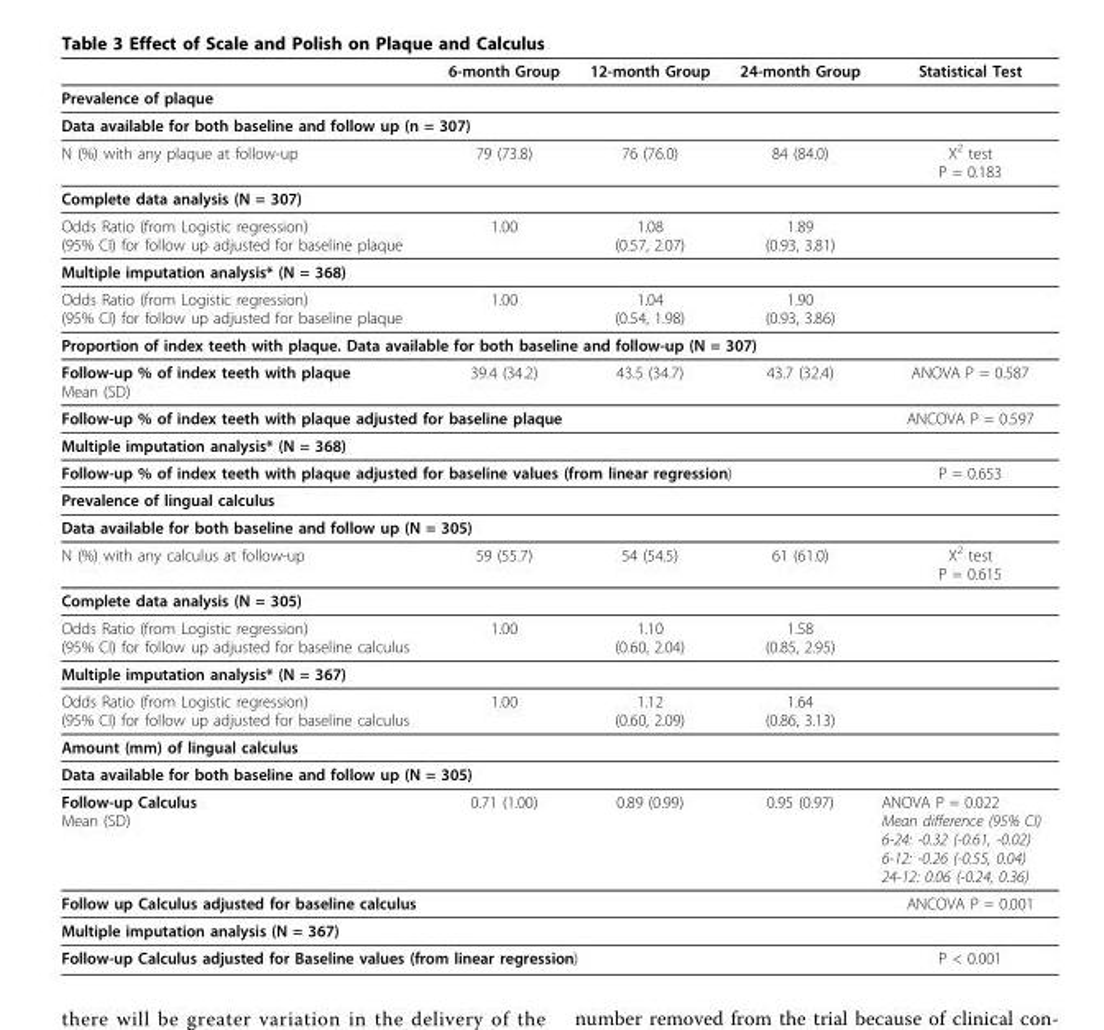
<table><thead><tr><td></td><td>6-month Group</td><td>12-month Group</td><td>24-month Group</td><td>Statistical Test</td></tr></thead><tbody><tr><td colspan="5">Prevalence of plaque</td></tr><tr><td colspan="5">Data available for both baseline and follow up (n = 307)</td></tr><tr><td>N (%) with any plaque at follow-up</td><td>79 (73.8)</td><td>76 (76.0)</td><td>84 (84.0)</td><td>Χ<sup>2</sup> test P = 0.183</td></tr><tr><td colspan="5">Complete data analysis (N = 307)</td></tr><tr><td>Odds Ratio (from Logistic regression) (95% CI) for follow up adjusted for baseline plaque</td><td>1.00</td><td>1.08 (0.57, 2.07)</td><td>1.89 (0.93, 3.81)</td><td></td></tr><tr><td colspan="5">Multiple imputation analysis* (N = 368)</td></tr><tr><td>Odds Ratio (from Logistic regression) (95% CI) for follow up adjusted for baseline plaque</td><td>1.00</td><td>1.04 (0.54, 1.98)</td><td>1.90 (0.93, 3.86)</td><td></td></tr><tr><td colspan="5">Proportion of index teeth with plaque. Data available for both baseline and follow-up (N = 307)</td></tr><tr><td>Follow-up % of index teeth with plaque Mean (SD)</td><td>39.4 (34.2)</td><td>43.5 (34.7)</td><td>43.7 (32.4)</td><td>ANOVA P = 0.587</td></tr><tr><td colspan="4">Follow-up % of index teeth with plaque adjusted for baseline plaque</td><td>ANCOVA P = 0.597</td></tr><tr><td colspan="5">Multiple imputation analysis* (N = 368)</td></tr><tr><td colspan="4">Follow-up % of index teeth with plaque adjusted for baseline values (from linear regression)</td><td>P = 0.653</td></tr><tr><td colspan="5">Prevalence of lingual calculus</td></tr><tr><td colspan="5">Data available for both baseline and follow up (N = 305)</td></tr><tr><td>N (%) with any calculus at follow-up</td><td>59 (55.7)</td><td>54 (54.5)</td><td>61 (61.0)</td><td>Χ<sup>2</sup> test P = 0.615</td></tr><tr><td colspan="5">Complete data analysis (N = 305)</td></tr><tr><td>Odds Ratio (from Logistic regression) (95% CI) for follow up adjusted for baseline calculus</td><td>1.00</td><td>1.10 (0.60, 2.04)</td><td>1.58 (0.85, 2.95)</td><td></td></tr><tr><td colspan="5">Multiple imputation analysis* (N = 367)</td></tr><tr><td>Odds Ratio (from Logistic regression) (95% CI) for follow up adjusted for baseline calculus</td><td>1.00</td><td>1.12 (0.60, 2.09)</td><td>1.64 (0.86, 3.13)</td><td></td></tr><tr><td colspan="5">Amount (mm) of lingual calculus</td></tr><tr><td colspan="5">Data available for both baseline and follow up (N = 305)</td></tr><tr><td>Follow-up Calculus Mean (SD)</td><td>0.71 (1.00)</td><td>0.89 (0.99)</td><td>0.95 (0.97)</td><td>ANOVA P = 0.022 Mean difference (95% CI) 6-24: -0.32 (-0.61, -0.02) 6-12: -0.26 (-0.55, 0.04) 24-12: 0.06 (-0.24, 0.36)</td></tr><tr><td colspan="4">Follow up Calculus adjusted for baseline calculus</td><td>ANCOVA P = 0.001</td></tr><tr><td colspan="5">Multiple imputation analysis (N = 367)</td></tr><tr><td colspan="4">Follow-up Calculus adjusted for Baseline values (from linear regression)</td><td>P &lt; 0.001</td></tr></tbody></table>